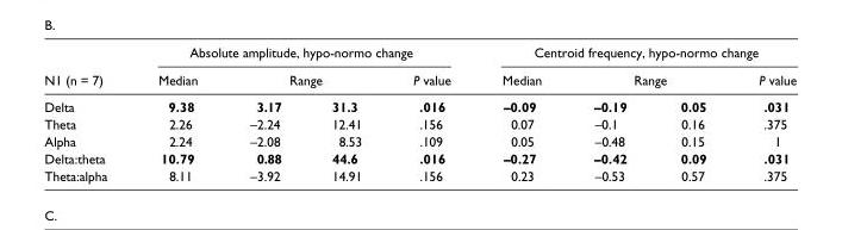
<table><thead><tr><td rowspan="3">N1 (n = 7) Delta</td><td colspan="4">Absolute amplitude, hypo-normo change</td><td colspan="4">Centroid frequency, hypo-normo change</td></tr><tr><td rowspan="2">Median 9.38</td><td colspan="2">Range</td><td rowspan="2">P value .016</td><td rowspan="2">Median –0.09</td><td colspan="2">Range</td><td rowspan="2">P value .031</td></tr><tr><td>3.17</td><td>31.3</td><td>–0.19</td><td>0.05</td></tr></thead><tbody><tr><td>Theta</td><td>2.26</td><td>–2.24</td><td>12.41</td><td>.156</td><td>0.07</td><td>–0.1</td><td>0.16</td><td>.375</td></tr><tr><td>Alpha</td><td>2.24</td><td>–2.08</td><td>8.53</td><td>.109</td><td>0.05</td><td>–0.48</td><td>0.15</td><td>1</td></tr><tr><td>Delta:theta</td><td>10.79</td><td>0.88</td><td>44.6</td><td>.016</td><td>–0.27</td><td>–0.42</td><td>0.09</td><td>.031</td></tr><tr><td>Theta:alpha</td><td>8.11</td><td>–3.92</td><td>14.91</td><td>.156</td><td>0.23</td><td>–0.53</td><td>0.57</td><td>.375</td></tr></tbody></table>